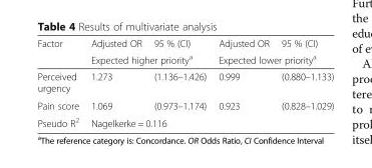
<table><thead><tr><td rowspan="2">Factor</td><td>Adjusted OR</td><td>95 % (CI)</td><td>Adjusted OR</td><td>95 % (CI)</td></tr><tr><td colspan="2">Expected higher priority<sup>a</sup></td><td colspan="2">Expected lower priority<sup>a</sup></td></tr></thead><tbody><tr><td>Perceived urgency</td><td>1.273</td><td>(1.136–1.426)</td><td>0.999</td><td>(0.880–1.133)</td></tr><tr><td>Pain score</td><td>1.069</td><td>(0.973–1.174)</td><td>0.923</td><td>(0.828–1.029)</td></tr><tr><td>Pseudo R<sup>2</sup></td><td colspan="4">Nagelkerke = 0.116</td></tr></tbody></table>